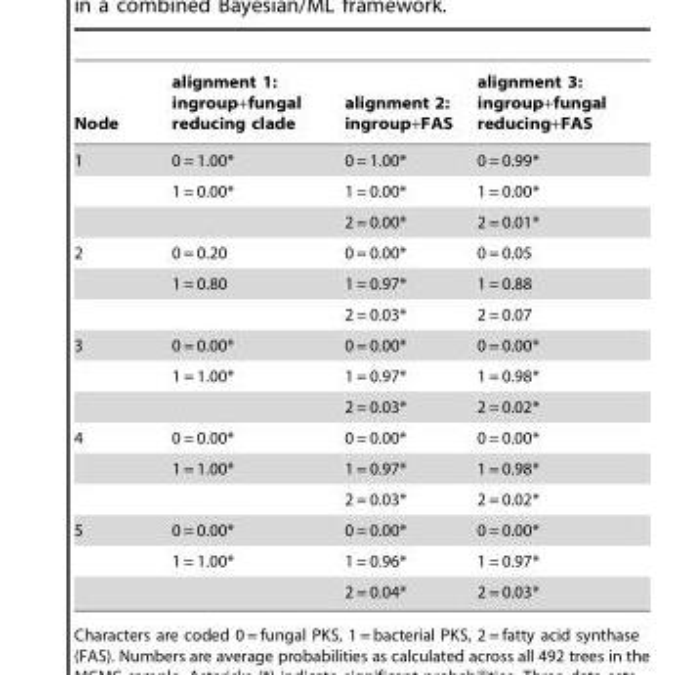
<table><thead><tr><td>Node</td><td>alignment 1: ingroup+fungal reducing clade</td><td>alignment 2: ingroup+FAS</td><td>alignment 3: ingroup+fungal reducing+FAS</td></tr></thead><tbody><tr><td rowspan="3">1</td><td>0 = 1.00*</td><td>0 = 1.00*</td><td>0 = 0.99*</td></tr><tr><td>1 = 0.00*</td><td>1 = 0.00*</td><td>1 = 0.00*</td></tr><tr><td></td><td>2 = 0.00*</td><td>2 = 0.01*</td></tr><tr><td rowspan="3">2</td><td>0 = 0.20</td><td>0 = 0.00*</td><td>0 = 0.05</td></tr><tr><td>1 = 0.80</td><td>1 = 0.97*</td><td>1 = 0.88</td></tr><tr><td></td><td>2 = 0.03*</td><td>2 = 0.07</td></tr><tr><td rowspan="3">3</td><td>0 = 0.00*</td><td>0 = 0.00*</td><td>0 = 0.00*</td></tr><tr><td>1 = 1.00*</td><td>1 = 0.97*</td><td>1 = 0.98*</td></tr><tr><td></td><td>2 = 0.03*</td><td>2 = 0.02*</td></tr><tr><td rowspan="3">4</td><td>0 = 0.00*</td><td>0 = 0.00*</td><td>0 = 0.00*</td></tr><tr><td>1 = 1.00*</td><td>1 = 0.97*</td><td>1 = 0.98*</td></tr><tr><td></td><td>2 = 0.03*</td><td>2 = 0.02*</td></tr><tr><td rowspan="3">5</td><td>0 = 0.00*</td><td>0 = 0.00*</td><td>0 = 0.00*</td></tr><tr><td>1 = 1.00*</td><td>1 = 0.96*</td><td>1 = 0.97*</td></tr><tr><td></td><td>2 = 0.04*</td><td>2 = 0.03*</td></tr></tbody></table>